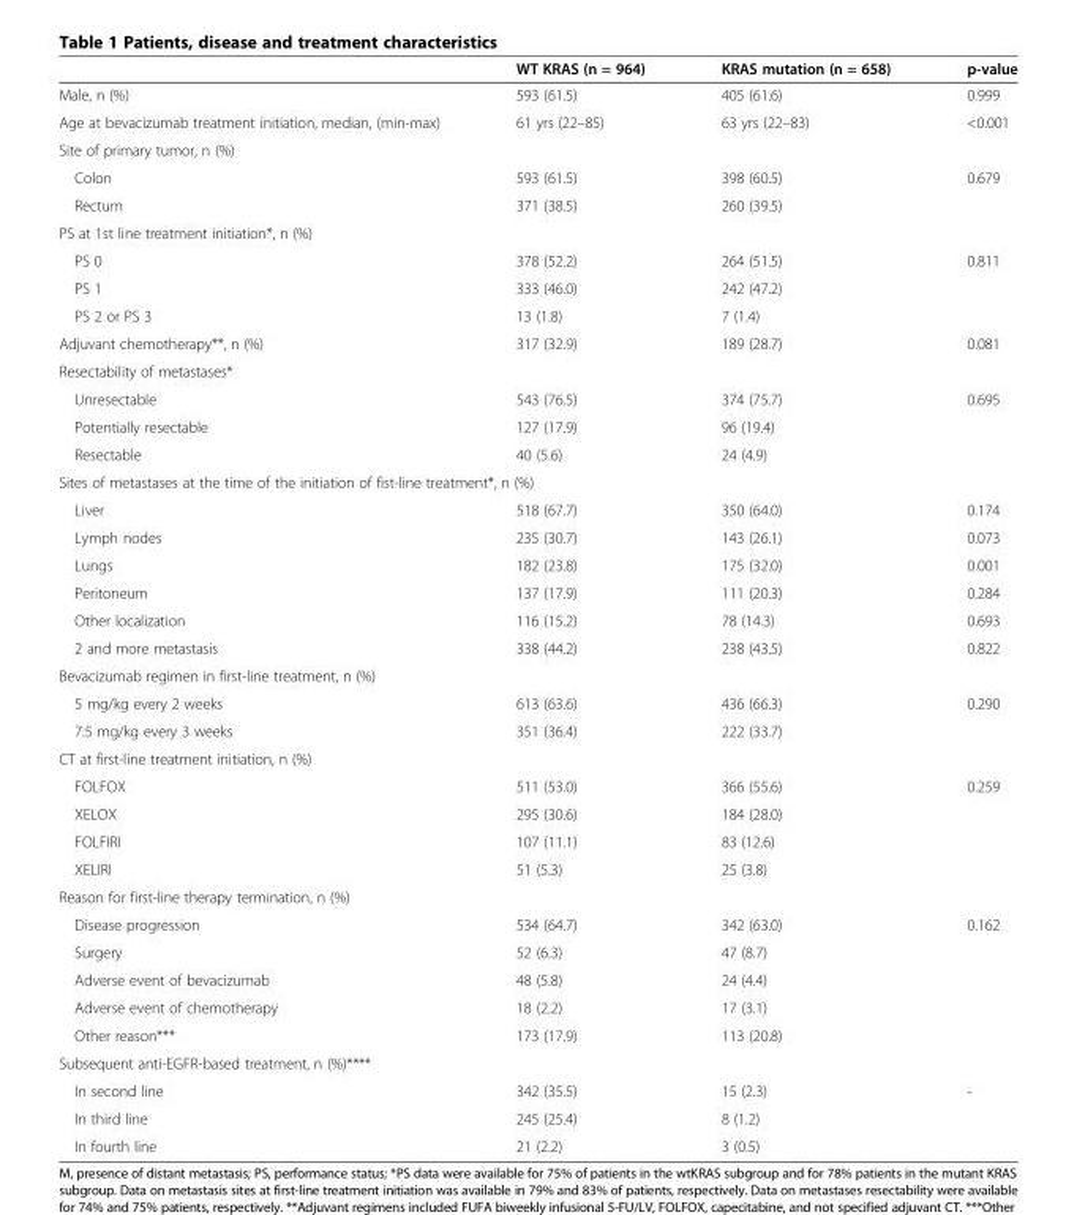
<table><thead><tr><td></td><td>WT KRAS (n = 964)</td><td>KRAS mutation (n = 658)</td><td>p-value</td></tr></thead><tbody><tr><td>Male, n (%)</td><td>593 (61.5)</td><td>405 (61.6)</td><td>0.999</td></tr><tr><td>Age at bevacizumab treatment initiation, median, (min-max)</td><td>61 yrs (22–85)</td><td>63 yrs (22–83)</td><td>&lt;0.001</td></tr><tr><td colspan="4">Site of primary tumor, n (%)</td></tr><tr><td>Colon</td><td>593 (61.5)</td><td>398 (60.5)</td><td>0.679</td></tr><tr><td>Rectum</td><td>371 (38.5)</td><td>260 (39.5)</td><td></td></tr><tr><td colspan="4">PS at 1st line treatment initiation*, n (%)</td></tr><tr><td>PS 0</td><td>378 (52.2)</td><td>264 (51.5)</td><td>0.811</td></tr><tr><td>PS 1</td><td>333 (46.0)</td><td>242 (47.2)</td><td></td></tr><tr><td>PS 2 or PS 3</td><td>13 (1.8)</td><td>7 (1.4)</td><td></td></tr><tr><td>Adjuvant chemotherapy**, n (%)</td><td>317 (32.9)</td><td>189 (28.7)</td><td>0.081</td></tr><tr><td colspan="4">Resectability of metastases*</td></tr><tr><td>Unresectable</td><td>543 (76.5)</td><td>374 (75.7)</td><td>0.695</td></tr><tr><td>Potentially resectable</td><td>127 (17.9)</td><td>96 (19.4)</td><td></td></tr><tr><td>Resectable</td><td>40 (5.6)</td><td>24 (4.9)</td><td></td></tr><tr><td colspan="4">Sites of metastases at the time of the initiation of fist-line treatment*, n (%)</td></tr><tr><td>Liver</td><td>518 (67.7)</td><td>350 (64.0)</td><td>0.174</td></tr><tr><td>Lymph nodes</td><td>235 (30.7)</td><td>143 (26.1)</td><td>0.073</td></tr><tr><td>Lungs</td><td>182 (23.8)</td><td>175 (32.0)</td><td>0.001</td></tr><tr><td>Peritoneum</td><td>137 (17.9)</td><td>111 (20.3)</td><td>0.284</td></tr><tr><td>Other localization</td><td>116 (15.2)</td><td>78 (14.3)</td><td>0.693</td></tr><tr><td>2 and more metastasis</td><td>338 (44.2)</td><td>238 (43.5)</td><td>0.822</td></tr><tr><td colspan="4">Bevacizumab regimen in first-line treatment, n (%)</td></tr><tr><td>5 mg/kg every 2 weeks</td><td>613 (63.6)</td><td>436 (66.3)</td><td>0.290</td></tr><tr><td>7.5 mg/kg every 3 weeks</td><td>351 (36.4)</td><td>222 (33.7)</td><td></td></tr><tr><td colspan="4">CT at first-line treatment initiation, n (%)</td></tr><tr><td>FOLFOX</td><td>511 (53.0)</td><td>366 (55.6)</td><td>0.259</td></tr><tr><td>XELOX</td><td>295 (30.6)</td><td>184 (28.0)</td><td></td></tr><tr><td>FOLFIRI</td><td>107 (11.1)</td><td>83 (12.6)</td><td></td></tr><tr><td>XELIRI</td><td>51 (5.3)</td><td>25 (3.8)</td><td></td></tr><tr><td colspan="4">Reason for first-line therapy termination, n (%)</td></tr><tr><td>Disease progression</td><td>534 (64.7)</td><td>342 (63.0)</td><td>0.162</td></tr><tr><td>Surgery</td><td>52 (6.3)</td><td>47 (8.7)</td><td></td></tr><tr><td>Adverse event of bevacizumab</td><td>48 (5.8)</td><td>24 (4.4)</td><td></td></tr><tr><td>Adverse event of chemotherapy</td><td>18 (2.2)</td><td>17 (3.1)</td><td></td></tr><tr><td>Other reason***</td><td>173 (17.9)</td><td>113 (20.8)</td><td></td></tr><tr><td colspan="4">Subsequent anti-EGFR-based treatment, n (%)****</td></tr><tr><td>In second line</td><td>342 (35.5)</td><td>15 (2.3)</td><td>-</td></tr><tr><td>In third line</td><td>245 (25.4)</td><td>8 (1.2)</td><td></td></tr><tr><td>In fourth line</td><td>21 (2.2)</td><td>3 (0.5)</td><td></td></tr></tbody></table>